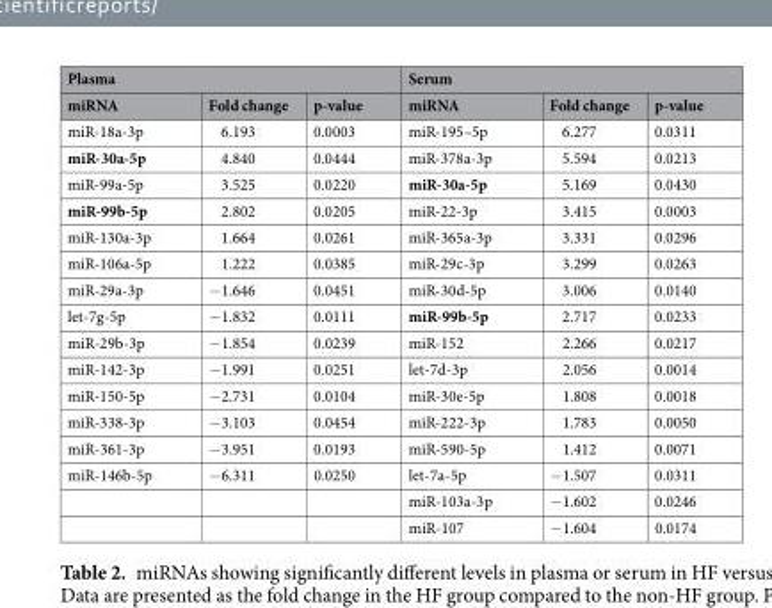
<table><thead><tr><td colspan="3">Plasma</td><td colspan="3">Serum</td></tr><tr><td>miRNA</td><td>Fold change</td><td>p-value</td><td>miRNA</td><td>Fold change</td><td>p-value</td></tr></thead><tbody><tr><td>miR-18a-3p</td><td>6.193</td><td>0.0003</td><td>miR-195–5p</td><td>6.277</td><td>0.0311</td></tr><tr><td>miR-30a-5p</td><td>4.840</td><td>0.0444</td><td>miR-378a-3p</td><td>5.594</td><td>0.0213</td></tr><tr><td>miR-99a-5p</td><td>3.525</td><td>0.0220</td><td>miR-30a-5p</td><td>5.169</td><td>0.0430</td></tr><tr><td>miR-99b-5p</td><td>2.802</td><td>0.0205</td><td>miR-22-3p</td><td>3.415</td><td>0.0003</td></tr><tr><td>miR-130a-3p</td><td>1.664</td><td>0.0261</td><td>miR-365a-3p</td><td>3.331</td><td>0.0296</td></tr><tr><td>miR-106a-5p</td><td>1.222</td><td>0.0385</td><td>miR-29c-3p</td><td>3.299</td><td>0.0263</td></tr><tr><td>miR-29a-3p</td><td>−1.646</td><td>0.0451</td><td>miR-30d-5p</td><td>3.006</td><td>0.0140</td></tr><tr><td>let-7g-5p</td><td>−1.832</td><td>0.0111</td><td>miR-99b-5p</td><td>2.717</td><td>0.0233</td></tr><tr><td>miR-29b-3p</td><td>−1.854</td><td>0.0239</td><td>miR-152</td><td>2.266</td><td>0.0217</td></tr><tr><td>miR-142-3p</td><td>−1.991</td><td>0.0251</td><td>let-7d-3p</td><td>2.056</td><td>0.0014</td></tr><tr><td>miR-150-5p</td><td>−2.731</td><td>0.0104</td><td>miR-30e-5p</td><td>1.808</td><td>0.0018</td></tr><tr><td>miR-338-3p</td><td>−3.103</td><td>0.0454</td><td>miR-222-3p</td><td>1.783</td><td>0.0050</td></tr><tr><td>miR-361-3p</td><td>−3.951</td><td>0.0193</td><td>miR-590-5p</td><td>1.412</td><td>0.0071</td></tr><tr><td rowspan="3">miR-146b-5p</td><td>−6.311</td><td>0.0250</td><td>let-7a-5p</td><td>−1.507</td><td>0.0311</td></tr><tr><td></td><td></td><td>miR-103a-3p</td><td>−1.602</td><td>0.0246</td></tr><tr><td></td><td></td><td>miR-107</td><td>−1.604</td><td>0.0174</td></tr></tbody></table>